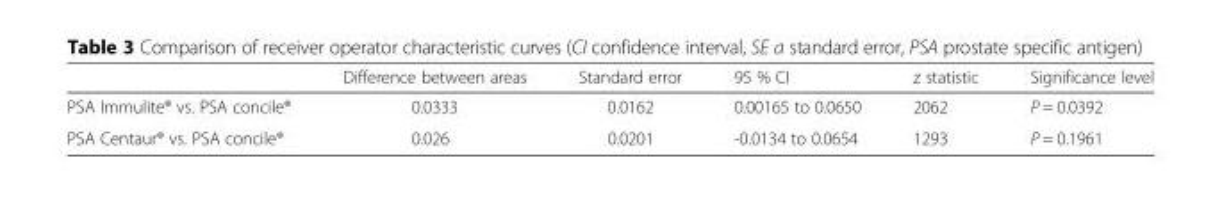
<table><thead><tr><td></td><td>Difference between areas</td><td>Standard error</td><td>95 % CI</td><td>z statistic</td><td>Significance level</td></tr></thead><tbody><tr><td>PSA Immulite® vs. PSA concile®</td><td>0.0333</td><td>0.0162</td><td>0.00165 to 0.0650</td><td>2062</td><td>P = 0.0392</td></tr><tr><td>PSA Centaur® vs. PSA concile®</td><td>0.026</td><td>0.0201</td><td>-0.0134 to 0.0654</td><td>1293</td><td>P = 0.1961</td></tr></tbody></table>